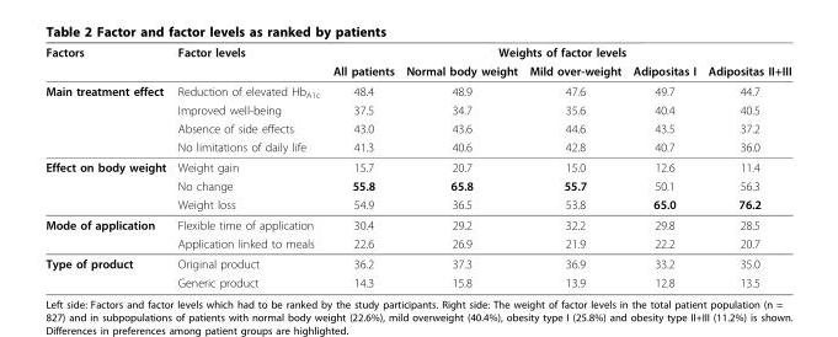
<table><thead><tr><td rowspan="2">Factors</td><td rowspan="2">Factor levels</td><td colspan="5">Weights of factor levels</td></tr><tr><td>All patients</td><td>Normal body weight</td><td>Mild over-weight</td><td>Adipositas I</td><td>Adipositas II+III</td></tr></thead><tbody><tr><td rowspan="4">Main treatment effect</td><td>Reduction of elevated Hb<sub>A1c</sub></td><td>48.4</td><td>48.9</td><td>47.6</td><td>49.7</td><td>44.7</td></tr><tr><td>Improved well-being</td><td>37.5</td><td>34.7</td><td>35.6</td><td>40.4</td><td>40.5</td></tr><tr><td>Absence of side effects</td><td>43.0</td><td>43.6</td><td>44.6</td><td>43.5</td><td>37.2</td></tr><tr><td>No limitations of daily life</td><td>41.3</td><td>40.6</td><td>42.8</td><td>40.7</td><td>36.0</td></tr><tr><td rowspan="3">Effect on body weight</td><td>Weight gain</td><td>15.7</td><td>20.7</td><td>15.0</td><td>12.6</td><td>11.4</td></tr><tr><td>No change</td><td>55.8</td><td>65.8</td><td>55.7</td><td>50.1</td><td>56.3</td></tr><tr><td>Weight loss</td><td>54.9</td><td>36.5</td><td>53.8</td><td>65.0</td><td>76.2</td></tr><tr><td rowspan="2">Mode of application</td><td>Flexible time of application</td><td>30.4</td><td>29.2</td><td>32.2</td><td>29.8</td><td>28.5</td></tr><tr><td>Application linked to meals</td><td>22.6</td><td>26.9</td><td>21.9</td><td>22.2</td><td>20.7</td></tr><tr><td rowspan="2">Type of product</td><td>Original product</td><td>36.2</td><td>37.3</td><td>36.9</td><td>33.2</td><td>35.0</td></tr><tr><td>Generic product</td><td>14.3</td><td>15.8</td><td>13.9</td><td>12.8</td><td>13.5</td></tr></tbody></table>